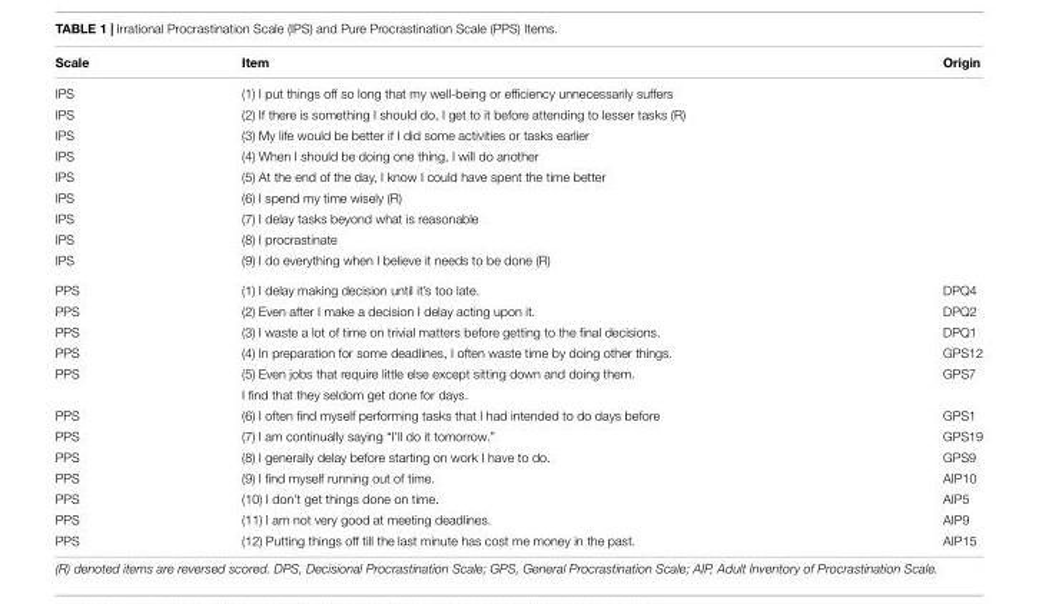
<table><thead><tr><td>Scale</td><td>Item</td><td>Origin</td></tr></thead><tbody><tr><td>IPS</td><td>(1) I put things off so long that my well-being or efficiency unnecessarily suffers</td><td></td></tr><tr><td>IPS</td><td>(2) If there is something I should do, I get to it before attending to lesser tasks (R)</td><td></td></tr><tr><td>IPS</td><td>(3) My life would be better if I did some activities or tasks earlier</td><td></td></tr><tr><td>IPS</td><td>(4) When I should be doing one thing, I will do another</td><td></td></tr><tr><td>IPS</td><td>(5) At the end of the day, I know I could have spent the time better</td><td></td></tr><tr><td>IPS</td><td>(6) I spend my time wisely (R)</td><td></td></tr><tr><td>IPS</td><td>(7) I delay tasks beyond what is reasonable</td><td></td></tr><tr><td>IPS</td><td>(8) I procrastinate</td><td></td></tr><tr><td>IPS</td><td>(9) I do everything when I believe it needs to be done (R)</td><td></td></tr><tr><td>PPS</td><td>(1) I delay making decision until it’s too late.</td><td>DPQ4</td></tr><tr><td>PPS</td><td>(2) Even after I make a decision I delay acting upon it.</td><td>DPQ2</td></tr><tr><td>PPS</td><td>(3) I waste a lot of time on trivial matters before getting to the final decisions.</td><td>DPQ1</td></tr><tr><td>PPS</td><td>(4) In preparation for some deadlines, I often waste time by doing other things.</td><td>GPS12</td></tr><tr><td rowspan="2">PPS</td><td>(5) Even jobs that require little else except sitting down and doing them.</td><td>GPS7</td></tr><tr><td>I find that they seldom get done for days.</td><td></td></tr><tr><td>PPS</td><td>(6) I often find myself performing tasks that I had intended to do days before</td><td>GPS1</td></tr><tr><td>PPS</td><td>(7) I am continually saying “I’ll do it tomorrow.”</td><td>GPS19</td></tr><tr><td>PPS</td><td>(8) I generally delay before starting on work I have to do.</td><td>GPS9</td></tr><tr><td>PPS</td><td>(9) I find myself running out of time.</td><td>AIP10</td></tr><tr><td>PPS</td><td>(10) I don’t get things done on time.</td><td>AIP5</td></tr><tr><td>PPS</td><td>(11) I am not very good at meeting deadlines.</td><td>AIP9</td></tr><tr><td>PPS</td><td>(12) Putting things off till the last minute has cost me money in the past.</td><td>AIP15</td></tr></tbody></table>